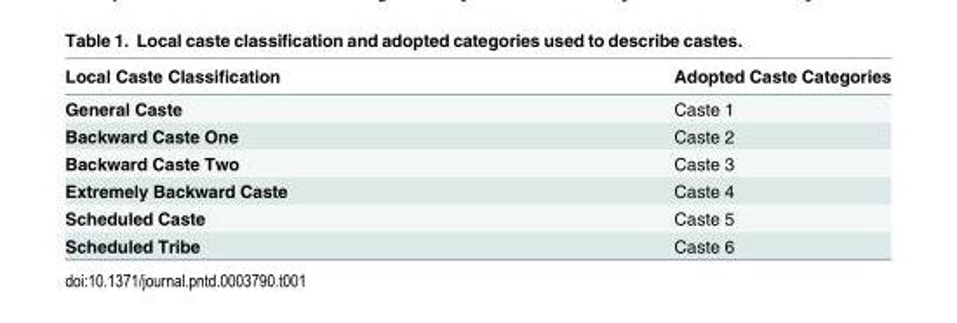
<table><thead><tr><td>Local Caste Classification</td><td>Adopted Caste Categories</td></tr></thead><tbody><tr><td>General Caste</td><td>Caste 1</td></tr><tr><td>Backward Caste One</td><td>Caste 2</td></tr><tr><td>Backward Caste Two</td><td>Caste 3</td></tr><tr><td>Extremely Backward Caste</td><td>Caste 4</td></tr><tr><td>Scheduled Caste</td><td>Caste 5</td></tr><tr><td>Scheduled Tribe</td><td>Caste 6</td></tr></tbody></table>